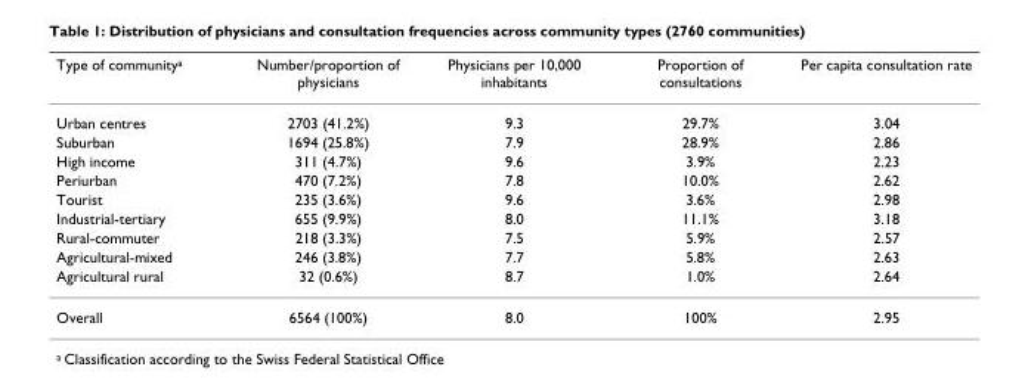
<table><thead><tr><td>Type of community<sup>a</sup></td><td>Number/proportion of physicians</td><td>Physicians per 10,000 inhabitants</td><td>Proportion of consultations</td><td>Per capita consultation rate</td></tr></thead><tbody><tr><td>Urban centres</td><td>2703 (41.2%)</td><td>9.3</td><td>29.7%</td><td>3.04</td></tr><tr><td>Suburban</td><td>1694 (25.8%)</td><td>7.9</td><td>28.9%</td><td>2.86</td></tr><tr><td>High income</td><td>311 (4.7%)</td><td>9.6</td><td>3.9%</td><td>2.23</td></tr><tr><td>Periurban</td><td>470 (7.2%)</td><td>7.8</td><td>10.0%</td><td>2.62</td></tr><tr><td>Tourist</td><td>235 (3.6%)</td><td>9.6</td><td>3.6%</td><td>2.98</td></tr><tr><td>Industrial-tertiary</td><td>655 (9.9%)</td><td>8.0</td><td>11.1%</td><td>3.18</td></tr><tr><td>Rural-commuter</td><td>218 (3.3%)</td><td>7.5</td><td>5.9%</td><td>2.57</td></tr><tr><td>Agricultural-mixed</td><td>246 (3.8%)</td><td>7.7</td><td>5.8%</td><td>2.63</td></tr><tr><td>Agricultural rural</td><td>32 (0.6%)</td><td>8.7</td><td>1.0%</td><td>2.64</td></tr><tr><td>Overall</td><td>6564 (100%)</td><td>8.0</td><td>100%</td><td>2.95</td></tr></tbody></table>